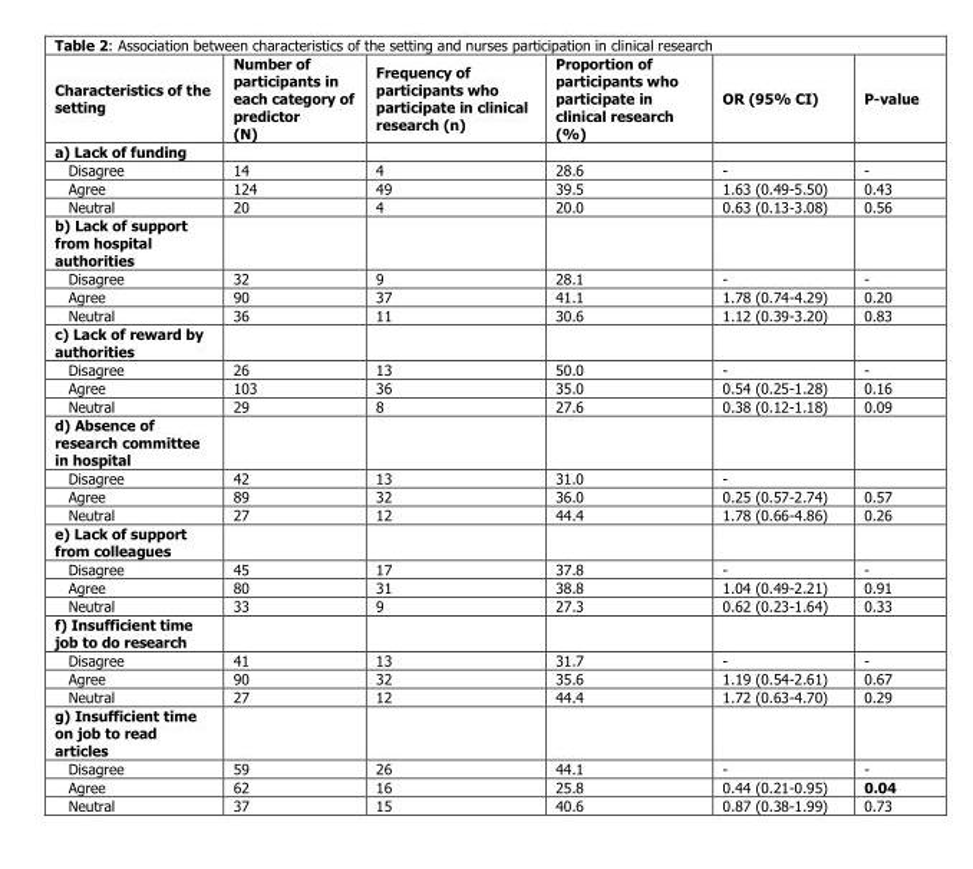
<table><thead><tr><td>Characteristics of the setting</td><td>Number of participants in each category of predictor (N)</td><td>Frequency of participants who participate in clinical research (n)</td><td>Proportion of participants who participate in clinical research (%)</td><td>OR (95% CI)</td><td>P-value</td></tr></thead><tbody><tr><td colspan="6">a) Lack of funding</td></tr><tr><td>Disagree</td><td>14</td><td>4</td><td>28.6</td><td>-</td><td>-</td></tr><tr><td>Agree</td><td>124</td><td>49</td><td>39.5</td><td>1.63 (0.49-5.50)</td><td>0.43</td></tr><tr><td>Neutral</td><td>20</td><td>4</td><td>20.0</td><td>0.63 (0.13-3.08)</td><td>0.56</td></tr><tr><td colspan="6">b) Lack of support from hospital authorities</td></tr><tr><td>Disagree</td><td>32</td><td>9</td><td>28.1</td><td>-</td><td>-</td></tr><tr><td>Agree</td><td>90</td><td>37</td><td>41.1</td><td>1.78 (0.74-4.29)</td><td>0.20</td></tr><tr><td>Neutral</td><td>36</td><td>11</td><td>30.6</td><td>1.12 (0.39-3.20)</td><td>0.83</td></tr><tr><td colspan="6">c) Lack of reward by authorities</td></tr><tr><td>Disagree</td><td>26</td><td>13</td><td>50.0</td><td>-</td><td>-</td></tr><tr><td>Agree</td><td>103</td><td>36</td><td>35.0</td><td>0.54 (0.25-1.28)</td><td>0.16</td></tr><tr><td>Neutral</td><td>29</td><td>8</td><td>27.6</td><td>0.38 (0.12-1.18)</td><td>0.09</td></tr><tr><td colspan="6">d) Absence of research committee in hospital</td></tr><tr><td>Disagree</td><td>42</td><td>13</td><td>31.0</td><td>-</td><td></td></tr><tr><td>Agree</td><td>89</td><td>32</td><td>36.0</td><td>0.25 (0.57-2.74)</td><td>0.57</td></tr><tr><td>Neutral</td><td>27</td><td>12</td><td>44.4</td><td>1.78 (0.66-4.86)</td><td>0.26</td></tr><tr><td colspan="6">e) Lack of support from colleagues</td></tr><tr><td>Disagree</td><td>45</td><td>17</td><td>37.8</td><td>-</td><td>-</td></tr><tr><td>Agree</td><td>80</td><td>31</td><td>38.8</td><td>1.04 (0.49-2.21)</td><td>0.91</td></tr><tr><td>Neutral</td><td>33</td><td>9</td><td>27.3</td><td>0.62 (0.23-1.64)</td><td>0.33</td></tr><tr><td colspan="6">f) Insufficient time job to do research</td></tr><tr><td>Disagree</td><td>41</td><td>13</td><td>31.7</td><td>-</td><td>-</td></tr><tr><td>Agree</td><td>90</td><td>32</td><td>35.6</td><td>1.19 (0.54-2.61)</td><td>0.67</td></tr><tr><td>Neutral</td><td>27</td><td>12</td><td>44.4</td><td>1.72 (0.63-4.70)</td><td>0.29</td></tr><tr><td colspan="6">g) Insufficient time on job to read articles</td></tr><tr><td>Disagree</td><td>59</td><td>26</td><td>44.1</td><td>-</td><td>-</td></tr><tr><td>Agree</td><td>62</td><td>16</td><td>25.8</td><td>0.44 (0.21-0.95)</td><td>0.04</td></tr><tr><td>Neutral</td><td>37</td><td>15</td><td>40.6</td><td>0.87 (0.38-1.99)</td><td>0.73</td></tr></tbody></table>